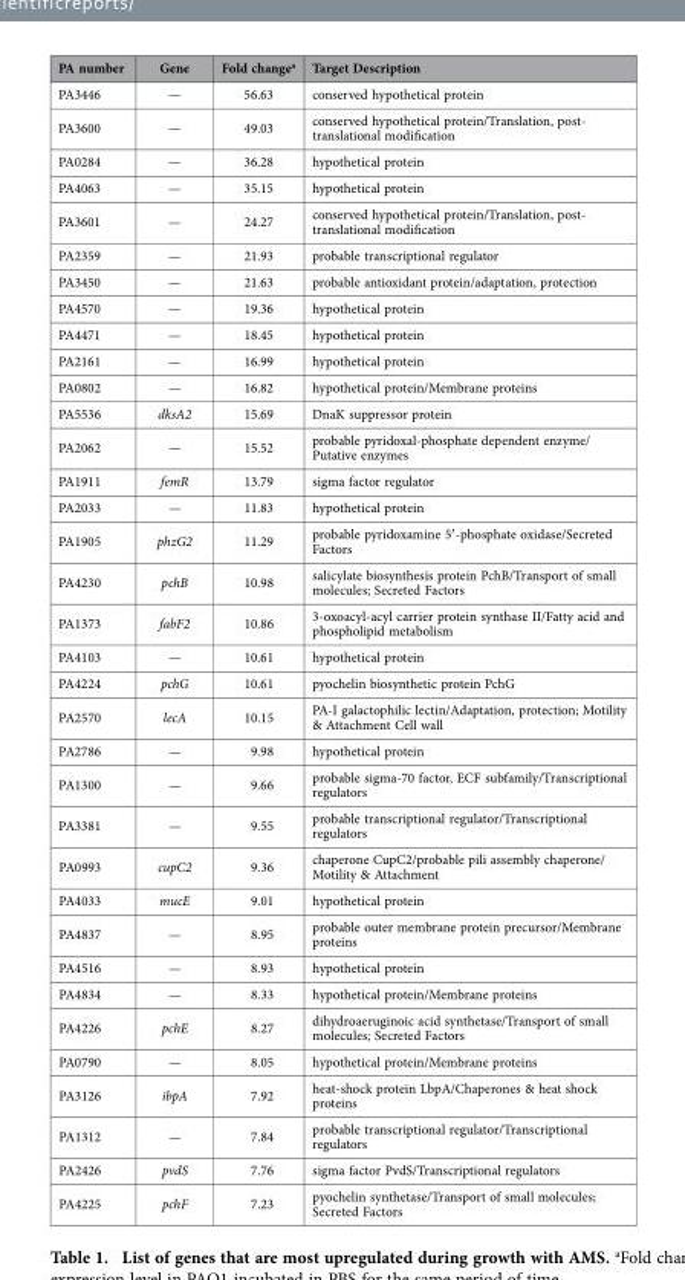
<table><thead><tr><td>PA number</td><td>Gene</td><td>Fold change<sup>a</sup></td><td>Target Description</td></tr></thead><tbody><tr><td>PA3446</td><td>—</td><td>56.63</td><td>conserved hypothetical protein</td></tr><tr><td>PA3600</td><td>—</td><td>49.03</td><td>conserved hypothetical protein/Translation, post- translational modification</td></tr><tr><td>PA0284</td><td>—</td><td>36.28</td><td>hypothetical protein</td></tr><tr><td>PA4063</td><td>—</td><td>35.15</td><td>hypothetical protein</td></tr><tr><td>PA3601</td><td>—</td><td>24.27</td><td>conserved hypothetical protein/Translation, post- translational modification</td></tr><tr><td>PA2359</td><td>—</td><td>21.93</td><td>probable transcriptional regulator</td></tr><tr><td>PA3450</td><td>—</td><td>21.63</td><td>probable antioxidant protein/adaptation, protection</td></tr><tr><td>PA4570</td><td>—</td><td>19.36</td><td>hypothetical protein</td></tr><tr><td>PA4471</td><td>—</td><td>18.45</td><td>hypothetical protein</td></tr><tr><td>PA2161</td><td>—</td><td>16.99</td><td>hypothetical protein</td></tr><tr><td>PA0802</td><td>—</td><td>16.82</td><td>hypothetical protein/Membrane proteins</td></tr><tr><td>PA5536</td><td>dksA2</td><td>15.69</td><td>DnaK suppressor protein</td></tr><tr><td>PA2062</td><td>—</td><td>15.52</td><td>probable pyridoxal-phosphate dependent enzyme/ Putative enzymes</td></tr><tr><td>PA1911</td><td>femR</td><td>13.79</td><td>sigma factor regulator</td></tr><tr><td>PA2033</td><td>—</td><td>11.83</td><td>hypothetical protein</td></tr><tr><td>PA1905</td><td>phzG2</td><td>11.29</td><td>probable pyridoxamine 5′ -phosphate oxidase/Secreted Factors</td></tr><tr><td>PA4230</td><td>pchB</td><td>10.98</td><td>salicylate biosynthesis protein PchB/Transport of small molecules; Secreted Factors</td></tr><tr><td>PA1373</td><td>fabF2</td><td>10.86</td><td>3-oxoacyl-acyl carrier protein synthase II/Fatty acid and phospholipid metabolism</td></tr><tr><td>PA4103</td><td>—</td><td>10.61</td><td>hypothetical protein</td></tr><tr><td>PA4224</td><td>pchG</td><td>10.61</td><td>pyochelin biosynthetic protein PchG</td></tr><tr><td>PA2570</td><td>lecA</td><td>10.15</td><td>PA-I galactophilic lectin/Adaptation, protection; Motility &amp; Attachment Cell wall</td></tr><tr><td>PA2786</td><td>—</td><td>9.98</td><td>hypothetical protein</td></tr><tr><td>PA1300</td><td>—</td><td>9.66</td><td>probable sigma-70 factor, ECF subfamily/Transcriptional regulators</td></tr><tr><td>PA3381</td><td>—</td><td>9.55</td><td>probable transcriptional regulator/Transcriptional regulators</td></tr><tr><td>PA0993</td><td>cupC2</td><td>9.36</td><td>chaperone CupC2/probable pili assembly chaperone/ Motility &amp; Attachment</td></tr><tr><td>PA4033</td><td>mucE</td><td>9.01</td><td>hypothetical protein</td></tr><tr><td>PA4837</td><td>—</td><td>8.95</td><td>probable outer membrane protein precursor/Membrane proteins</td></tr><tr><td>PA4516</td><td>—</td><td>8.93</td><td>hypothetical protein</td></tr><tr><td>PA4834</td><td>—</td><td>8.33</td><td>hypothetical protein/Membrane proteins</td></tr><tr><td>PA4226</td><td>pchE</td><td>8.27</td><td>dihydroaeruginoic acid synthetase/Transport of small molecules; Secreted Factors</td></tr><tr><td>PA0790</td><td>—</td><td>8.05</td><td>hypothetical protein/Membrane proteins</td></tr><tr><td>PA3126</td><td>ibpA</td><td>7.92</td><td>heat-shock protein LbpA/Chaperones &amp; heat shock proteins</td></tr><tr><td>PA1312</td><td>—</td><td>7.84</td><td>probable transcriptional regulator/Transcriptional regulators</td></tr><tr><td>PA2426</td><td>pvdS</td><td>7.76</td><td>sigma factor PvdS/Transcriptional regulators</td></tr><tr><td>PA4225</td><td>pchF</td><td>7.23</td><td>pyochelin synthetase/Transport of small molecules; Secreted Factors</td></tr></tbody></table>